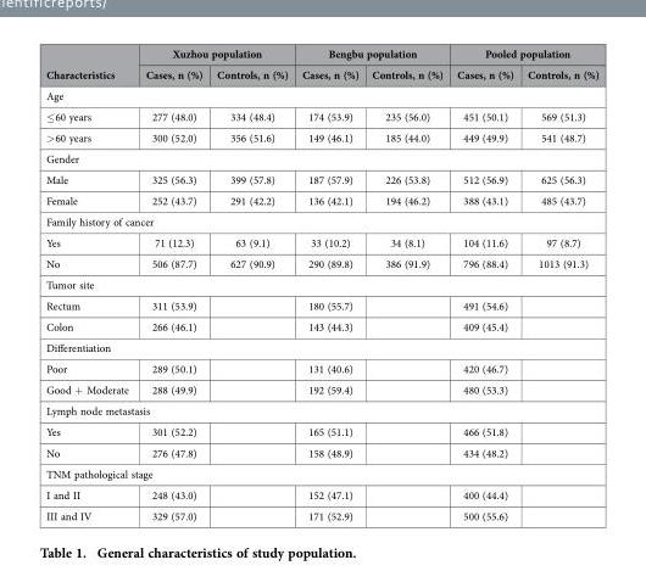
<table><thead><tr><td rowspan="2">Characteristics</td><td colspan="2">Xuzhou population</td><td colspan="2">Bengbu population</td><td colspan="2">Pooled population</td></tr><tr><td>Cases, n (%)</td><td>Controls, n (%)</td><td>Cases, n (%)</td><td>Controls, n (%)</td><td>Cases, n (%)</td><td>Controls, n (%)</td></tr></thead><tbody><tr><td colspan="7">Age</td></tr><tr><td>≤ 60 years</td><td>277 (48.0)</td><td>334 (48.4)</td><td>174 (53.9)</td><td>235 (56.0)</td><td>451 (50.1)</td><td>569 (51.3)</td></tr><tr><td>&gt; 60 years</td><td>300 (52.0)</td><td>356 (51.6)</td><td>149 (46.1)</td><td>185 (44.0)</td><td>449 (49.9)</td><td>541 (48.7)</td></tr><tr><td colspan="7">Gender</td></tr><tr><td>Male</td><td>325 (56.3)</td><td>399 (57.8)</td><td>187 (57.9)</td><td>226 (53.8)</td><td>512 (56.9)</td><td>625 (56.3)</td></tr><tr><td>Female</td><td>252 (43.7)</td><td>291 (42.2)</td><td>136 (42.1)</td><td>194 (46.2)</td><td>388 (43.1)</td><td>485 (43.7)</td></tr><tr><td colspan="7">Family history of cancer</td></tr><tr><td>Yes</td><td>71 (12.3)</td><td>63 (9.1)</td><td>33 (10.2)</td><td>34 (8.1)</td><td>104 (11.6)</td><td>97 (8.7)</td></tr><tr><td>No</td><td>506 (87.7)</td><td>627 (90.9)</td><td>290 (89.8)</td><td>386 (91.9)</td><td>796 (88.4)</td><td>1013 (91.3)</td></tr><tr><td colspan="7">Tumor site</td></tr><tr><td>Rectum</td><td>311 (53.9)</td><td></td><td>180 (55.7)</td><td></td><td>491 (54.6)</td><td></td></tr><tr><td>Colon</td><td>266 (46.1)</td><td></td><td>143 (44.3)</td><td></td><td>409 (45.4)</td><td></td></tr><tr><td colspan="7">Differentiation</td></tr><tr><td>Poor</td><td>289 (50.1)</td><td></td><td>131 (40.6)</td><td></td><td>420 (46.7)</td><td></td></tr><tr><td>Good + Moderate</td><td>288 (49.9)</td><td></td><td>192 (59.4)</td><td></td><td>480 (53.3)</td><td></td></tr><tr><td colspan="7">Lymph node metastasis</td></tr><tr><td>Yes</td><td>301 (52.2)</td><td></td><td>165 (51.1)</td><td></td><td>466 (51.8)</td><td></td></tr><tr><td>No</td><td>276 (47.8)</td><td></td><td>158 (48.9)</td><td></td><td>434 (48.2)</td><td></td></tr><tr><td colspan="7">TNM pathological stage</td></tr><tr><td>I and II</td><td>248 (43.0)</td><td></td><td>152 (47.1)</td><td></td><td>400 (44.4)</td><td></td></tr><tr><td>III and IV</td><td>329 (57.0)</td><td></td><td>171 (52.9)</td><td></td><td>500 (55.6)</td><td></td></tr></tbody></table>